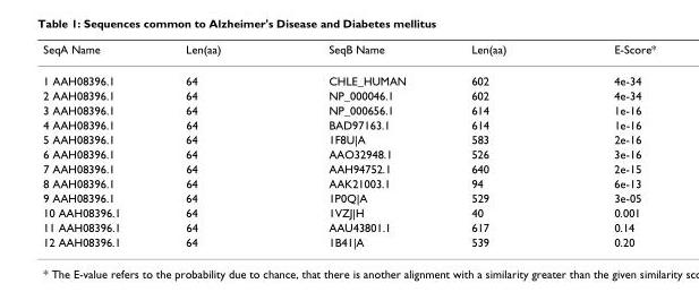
<table><thead><tr><td>SeqA Name</td><td>Len(aa)</td><td>SeqB Name</td><td>Len(aa)</td><td>E-Score*</td></tr></thead><tbody><tr><td>1 AAH08396.1</td><td>64</td><td>CHLE_HUMAN</td><td>602</td><td>4e-34</td></tr><tr><td>2 AAH08396.1</td><td>64</td><td>NP_000046.1</td><td>602</td><td>4e-34</td></tr><tr><td>3 AAH08396.1</td><td>64</td><td>NP_000656.1</td><td>614</td><td>1e-16</td></tr><tr><td>4 AAH08396.1</td><td>64</td><td>BAD97163.1</td><td>614</td><td>1e-16</td></tr><tr><td>5 AAH08396.1</td><td>64</td><td>1F8U|A</td><td>583</td><td>2e-16</td></tr><tr><td>6 AAH08396.1</td><td>64</td><td>AAO32948.1</td><td>526</td><td>3e-16</td></tr><tr><td>7 AAH08396.1</td><td>64</td><td>AAH94752.1</td><td>640</td><td>2e-15</td></tr><tr><td>8 AAH08396.1</td><td>64</td><td>AAK21003.1</td><td>94</td><td>6e-13</td></tr><tr><td>9 AAH08396.1</td><td>64</td><td>1P0Q|A</td><td>529</td><td>3e-05</td></tr><tr><td>10 AAH08396.1</td><td>64</td><td>1VZJ|H</td><td>40</td><td>0.001</td></tr><tr><td>11 AAH08396.1</td><td>64</td><td>AAU43801.1</td><td>617</td><td>0.14</td></tr><tr><td>12 AAH08396.1</td><td>64</td><td>1B41|A</td><td>539</td><td>0.20</td></tr></tbody></table>